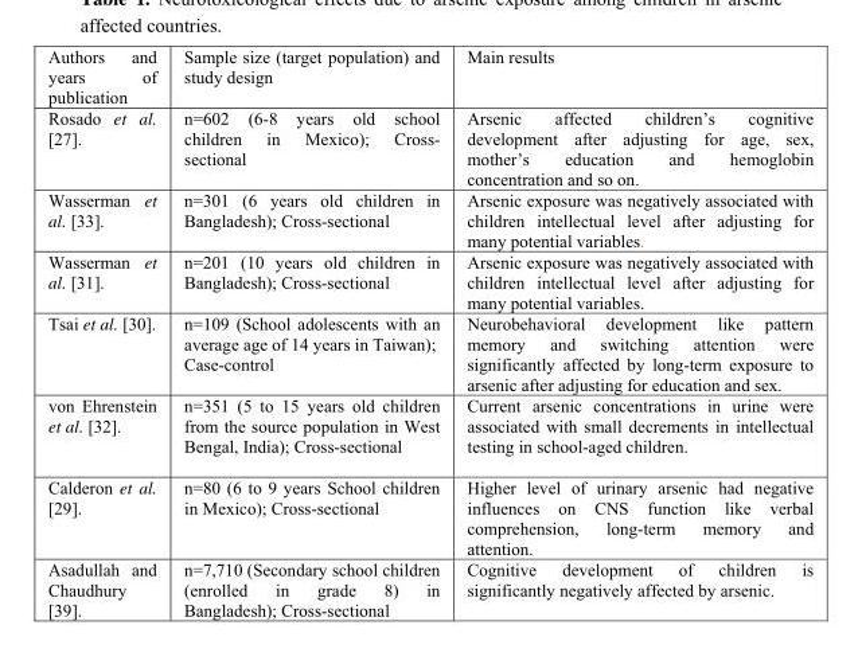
<table><thead><tr><td>Authors and years of publication</td><td>Sample size (target population) and study design</td><td>Main results</td></tr></thead><tbody><tr><td>Rosado et al. [27].</td><td>n=602 (6-8 years old school children in Mexico); Cross- sectional</td><td>Arsenic affected children’s cognitive development after adjusting for age, sex, mother’s education and hemoglobin concentration and so on.</td></tr><tr><td>Wasserman et al. [33].</td><td>n=301 (6 years old children in Bangladesh); Cross-sectional</td><td>Arsenic exposure was negatively associated with children intellectual level after adjusting for many potential variables.</td></tr><tr><td>Wasserman et al. [31].</td><td>n=201 (10 years old children in Bangladesh); Cross-sectional</td><td>Arsenic exposure was negatively associated with children intellectual level after adjusting for many potential variables.</td></tr><tr><td>Tsai et al. [30].</td><td>n=109 (School adolescents with an average age of 14 years in Taiwan); Case-control</td><td>Neurobehavioral development like pattern memory and switching attention were significantly affected by long-term exposure to arsenic after adjusting for education and sex.</td></tr><tr><td>von Ehrenstein et al. [32].</td><td>n=351 (5 to 15 years old children from the source population in West Bengal, India); Cross-sectional</td><td>Current arsenic concentrations in urine were associated with small decrements in intellectual testing in school-aged children.</td></tr><tr><td>Calderon et al. [29].</td><td>n=80 (6 to 9 years School children in Mexico); Cross-sectional</td><td>Higher level of urinary arsenic had negative influences on CNS function like verbal comprehension, long-term memory and attention.</td></tr><tr><td>Asadullah and Chaudhury [39].</td><td>n=7,710 (Secondary school children (enrolled in grade 8) in Bangladesh); Cross-sectional</td><td>Cognitive development of children is significantly negatively affected by arsenic.</td></tr></tbody></table>